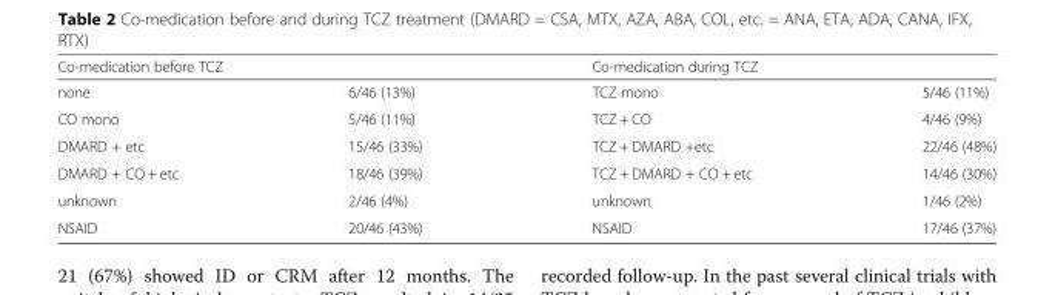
<table><thead><tr><td colspan="2">Co-medication before TCZ</td><td colspan="2">Co-medication during TCZ</td></tr><tr><td>none</td><td>6/46 (13%)</td><td>TCZ mono</td><td>5/46 (11%)</td></tr></thead><tbody><tr><td>CO mono</td><td>5/46 (11%)</td><td>TCZ + CO</td><td>4/46 (9%)</td></tr><tr><td>DMARD + etc</td><td>15/46 (33%)</td><td>TCZ + DMARD +etc</td><td>22/46 (48%)</td></tr><tr><td>DMARD + CO + etc</td><td>18/46 (39%)</td><td>TCZ + DMARD + CO + etc</td><td>14/46 (30%)</td></tr><tr><td>unknown</td><td>2/46 (4%)</td><td>unknown</td><td>1/46 (2%)</td></tr><tr><td>NSAID</td><td>20/46 (43%)</td><td>NSAID</td><td>17/46 (37%)</td></tr></tbody></table>